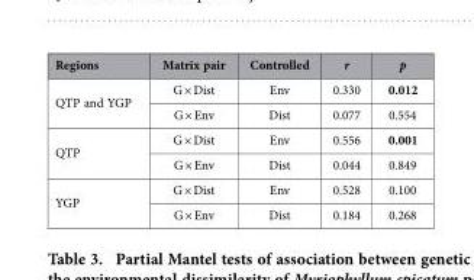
<table><thead><tr><td>Regions</td><td>Matrix pair</td><td>Controlled</td><td>r</td><td>p</td></tr></thead><tbody><tr><td rowspan="2">QTP and YGP</td><td>G × Dist</td><td>Env</td><td>0.330</td><td>0.012</td></tr><tr><td>G × Env</td><td>Dist</td><td>0.077</td><td>0.554</td></tr><tr><td rowspan="2">QTP</td><td>G × Dist</td><td>Env</td><td>0.556</td><td>0.001</td></tr><tr><td>G × Env</td><td>Dist</td><td>0.044</td><td>0.849</td></tr><tr><td rowspan="2">YGP</td><td>G × Dist</td><td>Env</td><td>0.528</td><td>0.100</td></tr><tr><td>G × Env</td><td>Dist</td><td>0.184</td><td>0.268</td></tr></tbody></table>